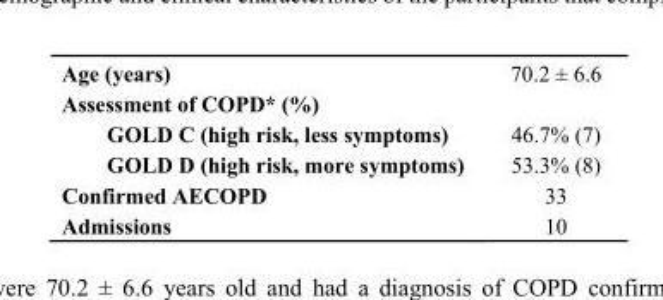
<table><tbody><tr><td>Age (years)</td><td>70.2 ± 6.6</td></tr><tr><td colspan="2">Assessment of COPD* (%)</td></tr><tr><td>GOLD C (high risk, less symptoms)</td><td>46.7% (7)</td></tr><tr><td>GOLD D (high risk, more symptoms)</td><td>53.3% (8)</td></tr><tr><td>Confirmed AECOPD</td><td>33</td></tr><tr><td>Admissions</td><td>10</td></tr></tbody></table>